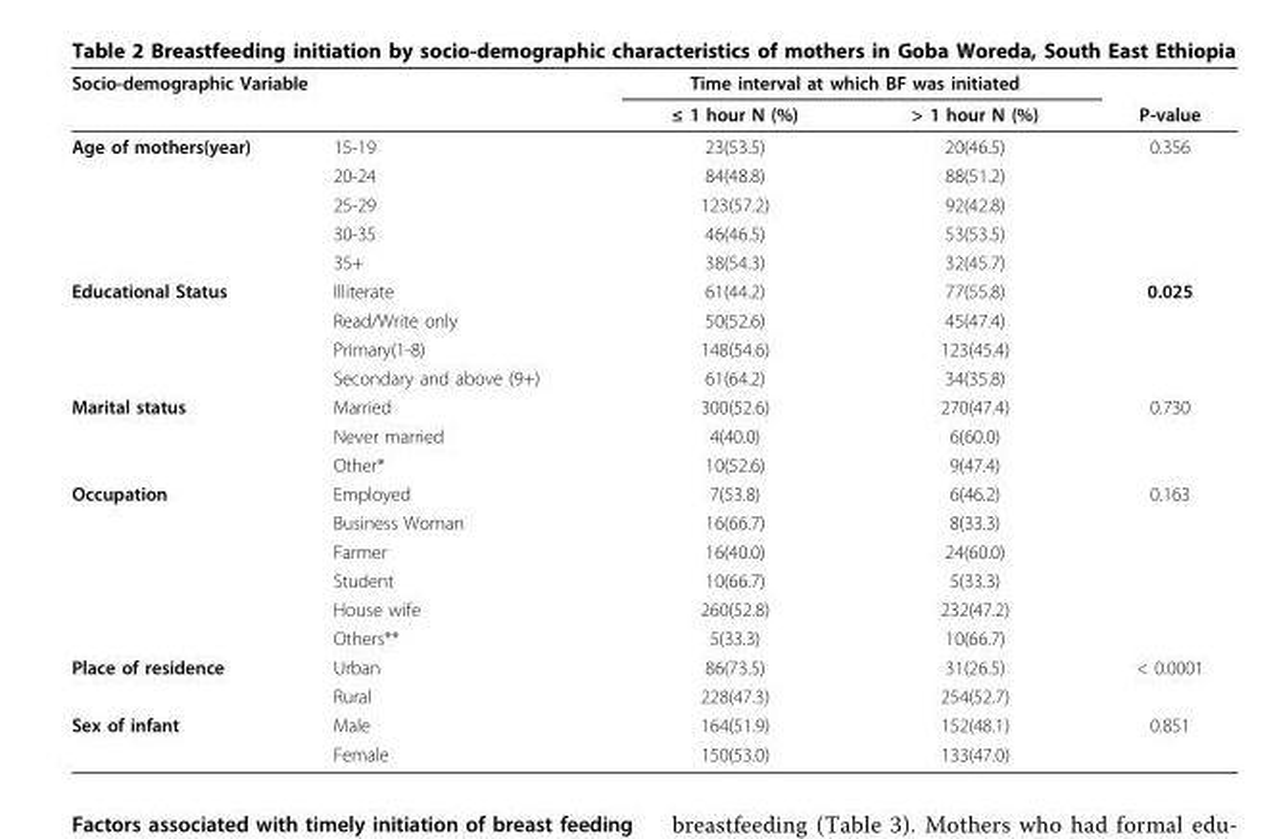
<table><thead><tr><td colspan="2">Socio-demographic Variable</td><td colspan="2">Time interval at which BF was initiated</td><td rowspan="2">P-value</td></tr><tr><td></td><td></td><td>≤ 1 hour N (%)</td><td>&gt; 1 hour N (%)</td></tr></thead><tbody><tr><td rowspan="5">Age of mothers(year)</td><td>15-19</td><td>23(53.5)</td><td>20(46.5)</td><td>0.356</td></tr><tr><td>20-24</td><td>84(48.8)</td><td>88(51.2)</td><td></td></tr><tr><td>25-29</td><td>123(57.2)</td><td>92(42.8)</td><td></td></tr><tr><td>30-35</td><td>46(46.5)</td><td>53(53.5)</td><td></td></tr><tr><td>35+</td><td>38(54.3)</td><td>32(45.7)</td><td></td></tr><tr><td rowspan="4">Educational Status</td><td>Illiterate</td><td>61(44.2)</td><td>77(55.8)</td><td>0.025</td></tr><tr><td>Read/Write only</td><td>50(52.6)</td><td>45(47.4)</td><td></td></tr><tr><td>Primary(1-8)</td><td>148(54.6)</td><td>123(45.4)</td><td></td></tr><tr><td>Secondary and above (9+)</td><td>61(64.2)</td><td>34(35.8)</td><td></td></tr><tr><td rowspan="3">Marital status</td><td>Married</td><td>300(52.6)</td><td>270(47.4)</td><td>0.730</td></tr><tr><td>Never married</td><td>4(40.0)</td><td>6(60.0)</td><td></td></tr><tr><td>Other*</td><td>10(52.6)</td><td>9(47.4)</td><td></td></tr><tr><td rowspan="6">Occupation</td><td>Employed</td><td>7(53.8)</td><td>6(46.2)</td><td>0.163</td></tr><tr><td>Business Woman</td><td>16(66.7)</td><td>8(33.3)</td><td></td></tr><tr><td>Farmer</td><td>16(40.0)</td><td>24(60.0)</td><td></td></tr><tr><td>Student</td><td>10(66.7)</td><td>5(33.3)</td><td></td></tr><tr><td>House wife</td><td>260(52.8)</td><td>232(47.2)</td><td></td></tr><tr><td>Others**</td><td>5(33.3)</td><td>10(66.7)</td><td></td></tr><tr><td rowspan="2">Place of residence</td><td>Urban</td><td>86(73.5)</td><td>31(26.5)</td><td>&lt; 0.0001</td></tr><tr><td>Rural</td><td>228(47.3)</td><td>254(52.7)</td><td></td></tr><tr><td rowspan="2">Sex of infant</td><td>Male</td><td>164(51.9)</td><td>152(48.1)</td><td>0.851</td></tr><tr><td>Female</td><td>150(53.0)</td><td>133(47.0)</td><td></td></tr></tbody></table>